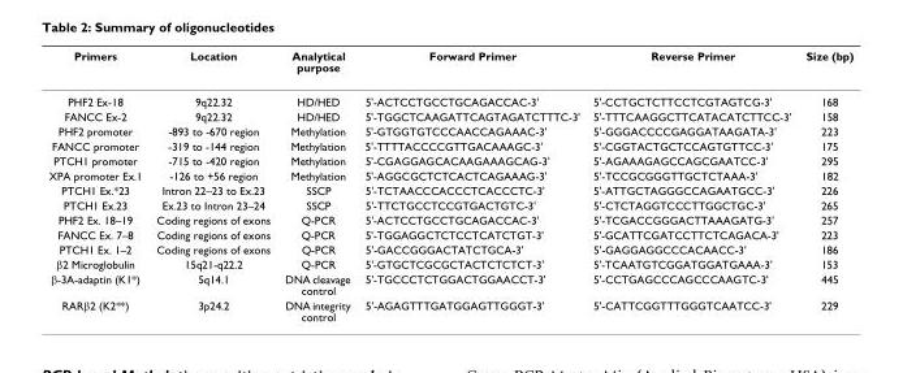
<table><thead><tr><td>Primers</td><td>Location</td><td>Analytical purpose</td><td>Forward Primer</td><td>Reverse Primer</td><td>Size (bp)</td></tr></thead><tbody><tr><td>PHF2 Ex-18</td><td>9q22.32</td><td>HD/HED</td><td>5&#x27;-ACTCCTGCCTGCAGACCAC-3&#x27;</td><td>5&#x27;-CCTGCTCTTCCTCGTAGTCG-3&#x27;</td><td>168</td></tr><tr><td>FANCC Ex-2</td><td>9q22.32</td><td>HD/HED</td><td>5&#x27;-TGGCTCAAGATTCAGTAGATCTTTC-3&#x27;</td><td>5&#x27;-TTTCAAGGCTTCATACATCTTCC-3&#x27;</td><td>158</td></tr><tr><td>PHF2 promoter</td><td>-893 to -670 region</td><td>Methylation</td><td>5&#x27;-GTGGTGTCCCAACCAGAAAC-3&#x27;</td><td>5&#x27;-GGGACCCCGAGGATAAGATA-3&#x27;</td><td>223</td></tr><tr><td>FANCC promoter</td><td>-319 to -144 region</td><td>Methylation</td><td>5&#x27;-TTTTACCCCGTTGACAAAGC-3&#x27;</td><td>5&#x27;-CGGTACTGCTCCAGTGTTCC-3&#x27;</td><td>175</td></tr><tr><td>PTCH1 promoter</td><td>-715 to -420 region</td><td>Methylation</td><td>5&#x27;-CGAGGAGCACAAGAAAGCAG-3&#x27;</td><td>5&#x27;-AGAAAGAGCCAGCGAATCC-3&#x27;</td><td>295</td></tr><tr><td>XPA promoter Ex.1</td><td>-126 to +56 region</td><td>Methylation</td><td>5&#x27;-AGGCGCTCTCACTCAGAAAG-3&#x27;</td><td>5&#x27;-TCCGCGGGTTGCTCTAAA-3&#x27;</td><td>182</td></tr><tr><td>PTCH1 Ex.*23</td><td>Intron 22–23 to Ex.23</td><td>SSCP</td><td>5&#x27;-TCTAACCCACCCTCACCCTC-3&#x27;</td><td>5&#x27;-ATTGCTAGGGCCAGAATGCC-3&#x27;</td><td>226</td></tr><tr><td>PTCH1 Ex.23</td><td>Ex.23 to Intron 23–24</td><td>SSCP</td><td>5&#x27;-TTCTGCCTCCGTGACTGTC-3&#x27;</td><td>5&#x27;-CTCTAGGTCCCTTGGCTGC-3&#x27;</td><td>265</td></tr><tr><td>PHF2 Ex. 18–19</td><td>Coding regions of exons</td><td>Q-PCR</td><td>5&#x27;-ACTCCTGCCTGCAGACCAC-3&#x27;</td><td>5&#x27;-TCGACCGGGACTTAAAGATG-3&#x27;</td><td>257</td></tr><tr><td>FANCC Ex. 7–8</td><td>Coding regions of exons</td><td>Q-PCR</td><td>5&#x27;-TGGAGGCTCTCCTCATCTGT-3&#x27;</td><td>5&#x27;-GCATTCGATCCTTCTCAGACA-3&#x27;</td><td>223</td></tr><tr><td>PTCH1 Ex. 1–2</td><td>Coding regions of exons</td><td>Q-PCR</td><td>5&#x27;-GACCGGGACTATCTGCA-3&#x27;</td><td>5&#x27;-GAGGAGGCCCACAACC-3&#x27;</td><td>186</td></tr><tr><td>β2 Microglobulin</td><td>15q21-q22.2</td><td>Q-PCR</td><td>5&#x27;-GTGCTCGCGCTACTCTCTCT-3&#x27;</td><td>5&#x27;-TCAATGTCGGATGGATGAAA-3&#x27;</td><td>153</td></tr><tr><td>β-3A-adaptin (K1*)</td><td>5q14.1</td><td>DNA cleavage control</td><td>5&#x27;-TGCCCTCTGGACTGGAACCT-3&#x27;</td><td>5&#x27;-CCTGAGCCCAGCCCAAGTC-3&#x27;</td><td>445</td></tr><tr><td>RARβ2 (K2**)</td><td>3p24.2</td><td>DNA integrity control</td><td>5&#x27;-AGAGTTTGATGGAGTTGGGT-3&#x27;</td><td>5&#x27;-CATTCGGTTTGGGTCAATCC-3&#x27;</td><td>229</td></tr></tbody></table>